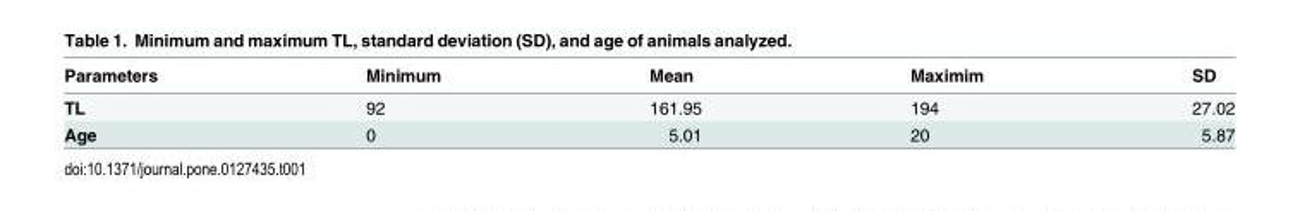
<table><thead><tr><td>Parameters</td><td>Minimum</td><td>Mean</td><td>Maximim</td><td>SD</td></tr></thead><tbody><tr><td>TL</td><td>92</td><td>161.95</td><td>194</td><td>27.02</td></tr><tr><td>Age</td><td>0</td><td>5.01</td><td>20</td><td>5.87</td></tr></tbody></table>